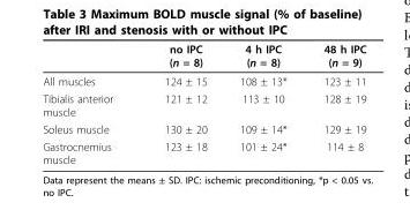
<table><thead><tr><td></td><td>no IPC (n = 8)</td><td>4 h IPC (n = 8)</td><td>48 h IPC (n = 9)</td></tr></thead><tbody><tr><td>All muscles</td><td>124 ± 15</td><td>108 ± 13*</td><td>123 ± 11</td></tr><tr><td>Tibialis anterior muscle</td><td>121 ± 12</td><td>113 ± 10</td><td>128 ± 19</td></tr><tr><td>Soleus muscle</td><td>130 ± 20</td><td>109 ± 14*</td><td>129 ± 19</td></tr><tr><td>Gastrocnemius muscle</td><td>123 ± 18</td><td>101 ± 24*</td><td>114 ± 8</td></tr></tbody></table>